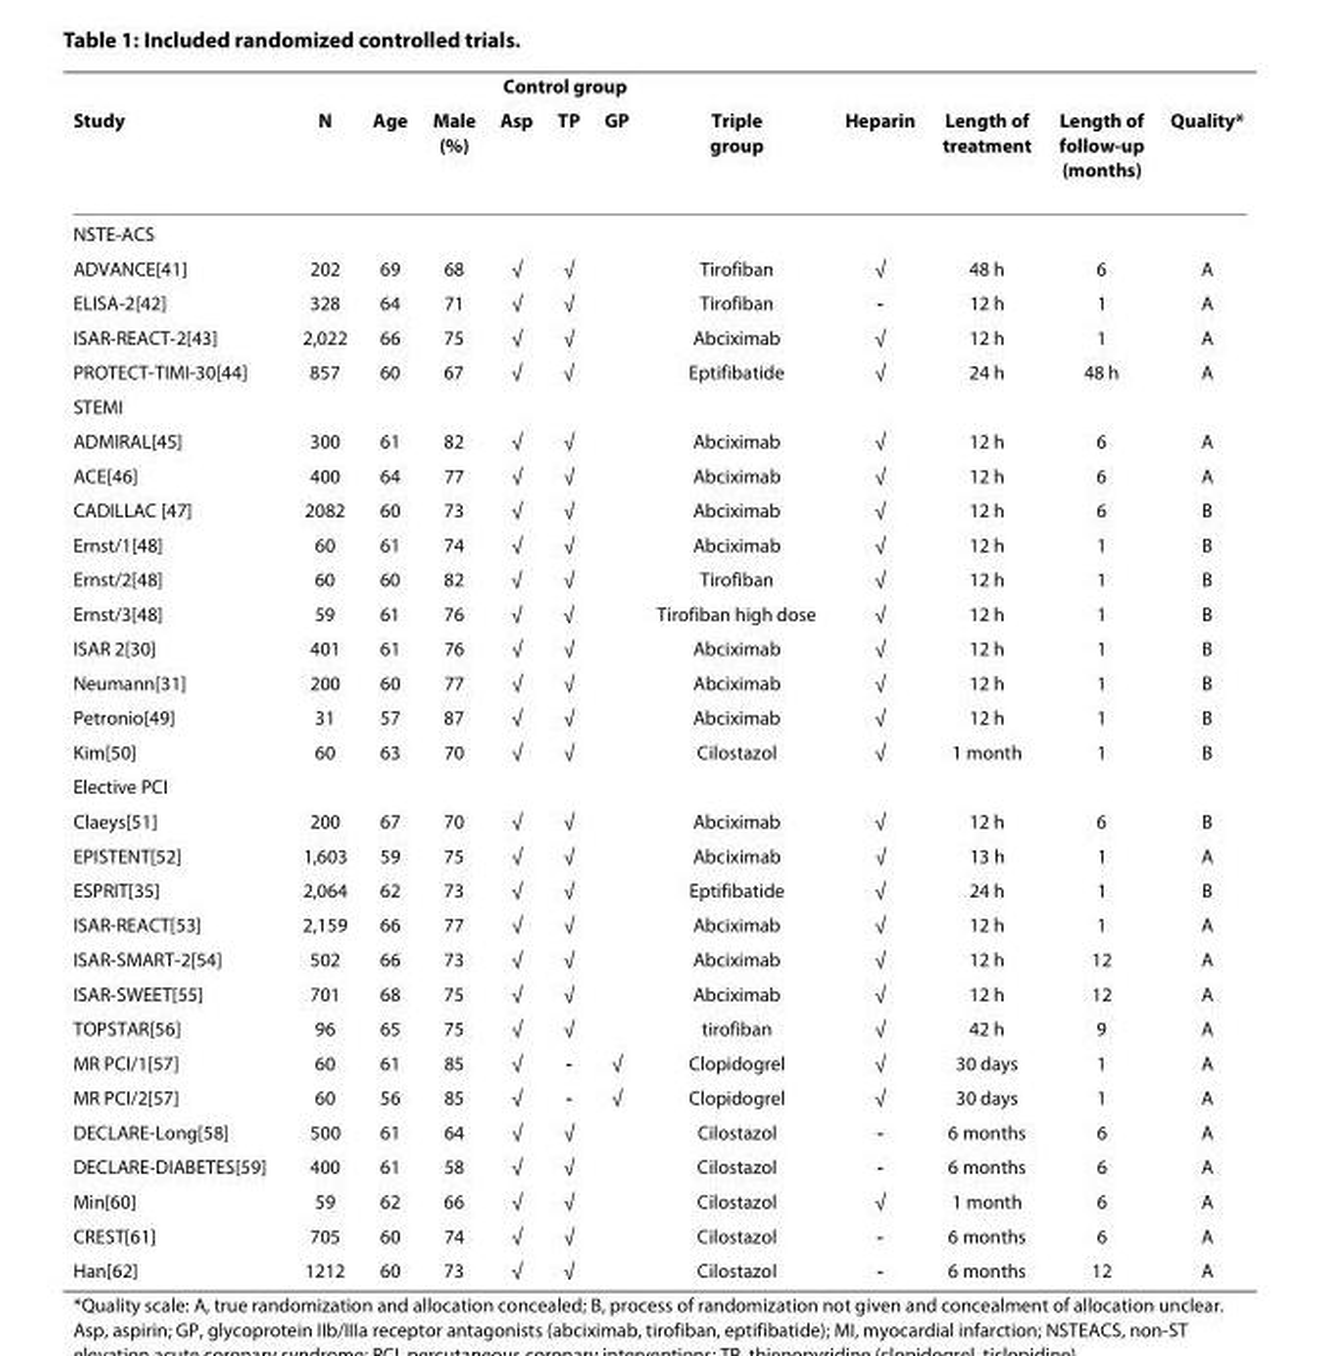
<table><thead><tr><td rowspan="2">Study</td><td rowspan="2">N</td><td rowspan="2">Age</td><td rowspan="2">Male (%)</td><td colspan="3">Control group</td><td rowspan="2">Triple group</td><td rowspan="2">Heparin</td><td rowspan="2">Length of treatment</td><td rowspan="2">Length of follow-up (months)</td><td rowspan="2">Quality*</td></tr><tr><td>Asp</td><td>TP</td><td>GP</td></tr></thead><tbody><tr><td colspan="12">NSTE-ACS</td></tr><tr><td>ADVANCE[41]</td><td>202</td><td>69</td><td>68</td><td>√</td><td>√</td><td></td><td>Tirofiban</td><td>√</td><td>48 h</td><td>6</td><td>A</td></tr><tr><td>ELISA-2[42]</td><td>328</td><td>64</td><td>71</td><td>√</td><td>√</td><td></td><td>Tirofiban</td><td>-</td><td>12 h</td><td>1</td><td>A</td></tr><tr><td>ISAR-REACT-2[43]</td><td>2,022</td><td>66</td><td>75</td><td>√</td><td>√</td><td></td><td>Abciximab</td><td>√</td><td>12 h</td><td>1</td><td>A</td></tr><tr><td>PROTECT-TIMI-30[44]</td><td>857</td><td>60</td><td>67</td><td>√</td><td>√</td><td></td><td>Eptifibatide</td><td>√</td><td>24 h</td><td>48 h</td><td>A</td></tr><tr><td colspan="12">STEMI</td></tr><tr><td>ADMIRAL[45]</td><td>300</td><td>61</td><td>82</td><td>√</td><td>√</td><td></td><td>Abciximab</td><td>√</td><td>12 h</td><td>6</td><td>A</td></tr><tr><td>ACE[46]</td><td>400</td><td>64</td><td>77</td><td>√</td><td>√</td><td></td><td>Abciximab</td><td>√</td><td>12 h</td><td>6</td><td>A</td></tr><tr><td>CADILLAC [47]</td><td>2082</td><td>60</td><td>73</td><td>√</td><td>√</td><td></td><td>Abciximab</td><td>√</td><td>12 h</td><td>6</td><td>B</td></tr><tr><td>Ernst/1[48]</td><td>60</td><td>61</td><td>74</td><td>√</td><td>√</td><td></td><td>Abciximab</td><td>√</td><td>12 h</td><td>1</td><td>B</td></tr><tr><td>Ernst/2[48]</td><td>60</td><td>60</td><td>82</td><td>√</td><td>√</td><td></td><td>Tirofiban</td><td>√</td><td>12 h</td><td>1</td><td>B</td></tr><tr><td>Ernst/3[48]</td><td>59</td><td>61</td><td>76</td><td>√</td><td>√</td><td></td><td>Tirofiban high dose</td><td>√</td><td>12 h</td><td>1</td><td>B</td></tr><tr><td>ISAR 2[30]</td><td>401</td><td>61</td><td>76</td><td>√</td><td>√</td><td></td><td>Abciximab</td><td>√</td><td>12 h</td><td>1</td><td>B</td></tr><tr><td>Neumann[31]</td><td>200</td><td>60</td><td>77</td><td>√</td><td>√</td><td></td><td>Abciximab</td><td>√</td><td>12 h</td><td>1</td><td>B</td></tr><tr><td>Petronio[49]</td><td>31</td><td>57</td><td>87</td><td>√</td><td>√</td><td></td><td>Abciximab</td><td>√</td><td>12 h</td><td>1</td><td>B</td></tr><tr><td>Kim[50]</td><td>60</td><td>63</td><td>70</td><td>√</td><td>√</td><td></td><td>Cilostazol</td><td>√</td><td>1 month</td><td>1</td><td>B</td></tr><tr><td colspan="12">Elective PCI</td></tr><tr><td>Claeys[51]</td><td>200</td><td>67</td><td>70</td><td>√</td><td>√</td><td></td><td>Abciximab</td><td>√</td><td>12 h</td><td>6</td><td>B</td></tr><tr><td>EPISTENT[52]</td><td>1,603</td><td>59</td><td>75</td><td>√</td><td>√</td><td></td><td>Abciximab</td><td>√</td><td>13 h</td><td>1</td><td>A</td></tr><tr><td>ESPRIT[35]</td><td>2,064</td><td>62</td><td>73</td><td>√</td><td>√</td><td></td><td>Eptifibatide</td><td>√</td><td>24 h</td><td>1</td><td>B</td></tr><tr><td>ISAR-REACT[53]</td><td>2,159</td><td>66</td><td>77</td><td>√</td><td>√</td><td></td><td>Abciximab</td><td>√</td><td>12 h</td><td>1</td><td>A</td></tr><tr><td>ISAR-SMART-2[54]</td><td>502</td><td>66</td><td>73</td><td>√</td><td>√</td><td></td><td>Abciximab</td><td>√</td><td>12 h</td><td>12</td><td>A</td></tr><tr><td>ISAR-SWEET[55]</td><td>701</td><td>68</td><td>75</td><td>√</td><td>√</td><td></td><td>Abciximab</td><td>√</td><td>12 h</td><td>12</td><td>A</td></tr><tr><td>TOPSTAR[56]</td><td>96</td><td>65</td><td>75</td><td>√</td><td>√</td><td></td><td>tirofiban</td><td>√</td><td>42 h</td><td>9</td><td>A</td></tr><tr><td>MR PCI/1[57]</td><td>60</td><td>61</td><td>85</td><td>√</td><td>-</td><td>√</td><td>Clopidogrel</td><td>√</td><td>30 days</td><td>1</td><td>A</td></tr><tr><td>MR PCI/2[57]</td><td>60</td><td>56</td><td>85</td><td>√</td><td>-</td><td>√</td><td>Clopidogrel</td><td>√</td><td>30 days</td><td>1</td><td>A</td></tr><tr><td>DECLARE-Long[58]</td><td>500</td><td>61</td><td>64</td><td>√</td><td>√</td><td></td><td>Cilostazol</td><td>-</td><td>6 months</td><td>6</td><td>A</td></tr><tr><td>DECLARE-DIABETES[59]</td><td>400</td><td>61</td><td>58</td><td>√</td><td>√</td><td></td><td>Cilostazol</td><td>-</td><td>6 months</td><td>6</td><td>A</td></tr><tr><td>Min[60]</td><td>59</td><td>62</td><td>66</td><td>√</td><td>√</td><td></td><td>Cilostazol</td><td>√</td><td>1 month</td><td>6</td><td>A</td></tr><tr><td>CREST[61]</td><td>705</td><td>60</td><td>74</td><td>√</td><td>√</td><td></td><td>Cilostazol</td><td>-</td><td>6 months</td><td>6</td><td>A</td></tr><tr><td>Han[62]</td><td>1212</td><td>60</td><td>73</td><td>√</td><td>√</td><td></td><td>Cilostazol</td><td>-</td><td>6 months</td><td>12</td><td>A</td></tr></tbody></table>